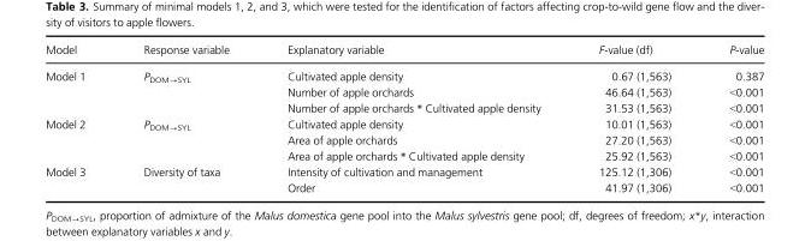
<table><thead><tr><td>Model</td><td>Response variable</td><td>Explanatory variable</td><td>F-value (df)</td><td>P-value</td></tr></thead><tbody><tr><td rowspan="3">Model 1</td><td rowspan="3">P<sub>DOM→SYL</sub></td><td>Cultivated apple density</td><td>0.67 (1,563)</td><td>0.387</td></tr><tr><td>Number of apple orchards</td><td>46.64 (1,563)</td><td>&lt;0.001</td></tr><tr><td>Number of apple orchards * Cultivated apple density</td><td>31.53 (1,563)</td><td>&lt;0.001</td></tr><tr><td rowspan="3">Model 2</td><td rowspan="3">P<sub>DOM→SYL</sub></td><td>Cultivated apple density</td><td>10.01 (1,563)</td><td>&lt;0.001</td></tr><tr><td>Area of apple orchards</td><td>27.20 (1,563)</td><td>&lt;0.001</td></tr><tr><td>Area of apple orchards * Cultivated apple density</td><td>25.92 (1,563)</td><td>&lt;0.001</td></tr><tr><td rowspan="2">Model 3</td><td rowspan="2">Diversity of taxa</td><td>Intensity of cultivation and management</td><td>125.12 (1,306)</td><td>&lt;0.001</td></tr><tr><td>Order</td><td>41.97 (1,306)</td><td>&lt;0.001</td></tr></tbody></table>